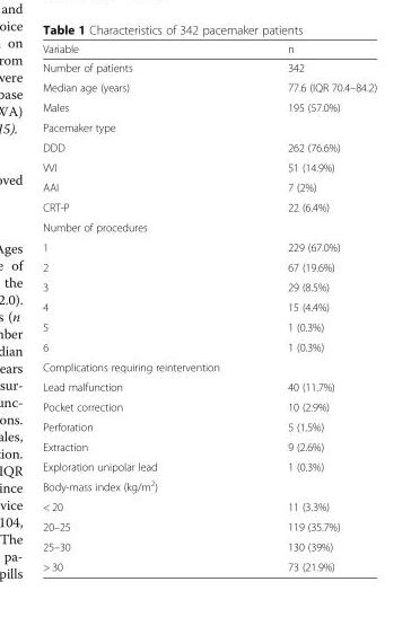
<table><thead><tr><td>Variable</td><td>n</td></tr></thead><tbody><tr><td>Number of patients</td><td>342</td></tr><tr><td>Median age (years)</td><td>77.6 (IQR 70.4–84.2)</td></tr><tr><td>Males</td><td>195 (57.0%)</td></tr><tr><td colspan="2">Pacemaker type</td></tr><tr><td>DDD</td><td>262 (76.6%)</td></tr><tr><td>VVI</td><td>51 (14.9%)</td></tr><tr><td>AAI</td><td>7 (2%)</td></tr><tr><td>CRT-P</td><td>22 (6.4%)</td></tr><tr><td colspan="2">Number of procedures</td></tr><tr><td>1</td><td>229 (67.0%)</td></tr><tr><td>2</td><td>67 (19.6%)</td></tr><tr><td>3</td><td>29 (8.5%)</td></tr><tr><td>4</td><td>15 (4.4%)</td></tr><tr><td>5</td><td>1 (0.3%)</td></tr><tr><td>6</td><td>1 (0.3%)</td></tr><tr><td colspan="2">Complications requiring reintervention</td></tr><tr><td>Lead malfunction</td><td>40 (11.7%)</td></tr><tr><td>Pocket correction</td><td>10 (2.9%)</td></tr><tr><td>Perforation</td><td>5 (1.5%)</td></tr><tr><td>Extraction</td><td>9 (2.6%)</td></tr><tr><td>Exploration unipolar lead</td><td>1 (0.3%)</td></tr><tr><td colspan="2">Body-mass index (kg/m<sup>2</sup>)</td></tr><tr><td>&lt; 20</td><td>11 (3.3%)</td></tr><tr><td>20–25</td><td>119 (35.7%)</td></tr><tr><td>25–30</td><td>130 (39%)</td></tr><tr><td>&gt; 30</td><td>73 (21.9%)</td></tr></tbody></table>